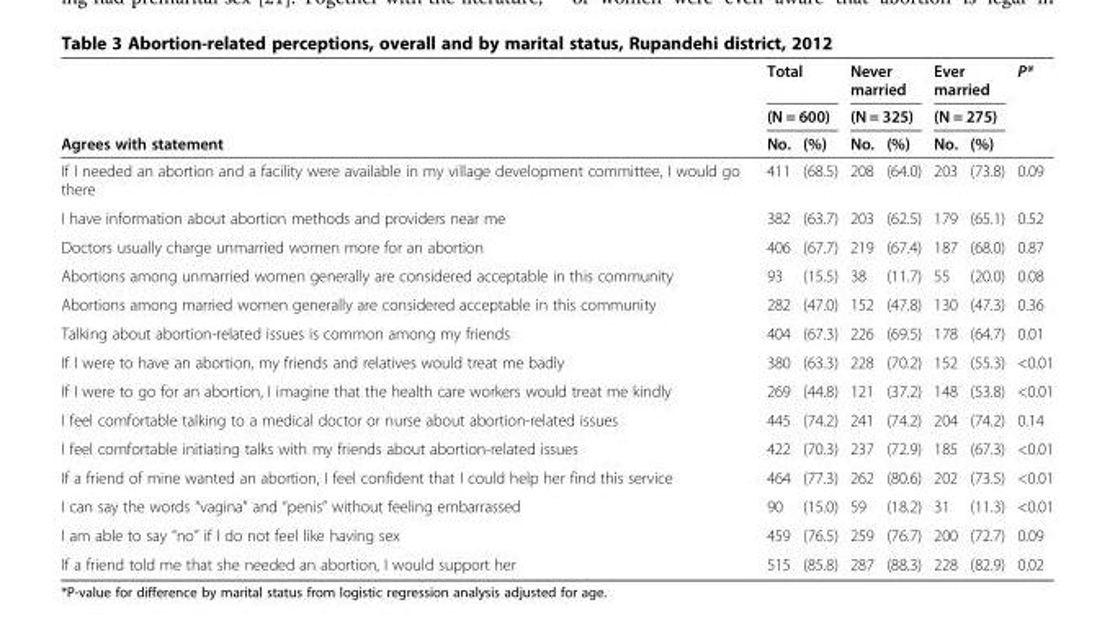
<table><thead><tr><td rowspan="3">Agrees with statement</td><td rowspan="2" colspan="2">Total (N = 600)</td><td rowspan="2" colspan="2">Never married (N = 325)</td><td rowspan="2" colspan="2">Ever married (N = 275)</td><td rowspan="3">P*</td></tr><tr></tr><tr><td>No.</td><td>(%)</td><td>No.</td><td>(%)</td><td>No.</td><td>(%)</td></tr></thead><tbody><tr><td>If I needed an abortion and a facility were available in my village development committee, I would go there</td><td>411</td><td>(68.5)</td><td>208</td><td>(64.0)</td><td>203</td><td>(73.8)</td><td>0.09</td></tr><tr><td>I have information about abortion methods and providers near me</td><td>382</td><td>(63.7)</td><td>203</td><td>(62.5)</td><td>179</td><td>(65.1)</td><td>0.52</td></tr><tr><td>Doctors usually charge unmarried women more for an abortion</td><td>406</td><td>(67.7)</td><td>219</td><td>(67.4)</td><td>187</td><td>(68.0)</td><td>0.87</td></tr><tr><td>Abortions among unmarried women generally are considered acceptable in this community</td><td>93</td><td>(15.5)</td><td>38</td><td>(11.7)</td><td>55</td><td>(20.0)</td><td>0.08</td></tr><tr><td>Abortions among married women generally are considered acceptable in this community</td><td>282</td><td>(47.0)</td><td>152</td><td>(47.8)</td><td>130</td><td>(47.3)</td><td>0.36</td></tr><tr><td>Talking about abortion-related issues is common among my friends</td><td>404</td><td>(67.3)</td><td>226</td><td>(69.5)</td><td>178</td><td>(64.7)</td><td>0.01</td></tr><tr><td>If I were to have an abortion, my friends and relatives would treat me badly</td><td>380</td><td>(63.3)</td><td>228</td><td>(70.2)</td><td>152</td><td>(55.3)</td><td>&lt;0.01</td></tr><tr><td>If I were to go for an abortion, I imagine that the health care workers would treat me kindly</td><td>269</td><td>(44.8)</td><td>121</td><td>(37.2)</td><td>148</td><td>(53.8)</td><td>&lt;0.01</td></tr><tr><td>I feel comfortable talking to a medical doctor or nurse about abortion-related issues</td><td>445</td><td>(74.2)</td><td>241</td><td>(74.2)</td><td>204</td><td>(74.2)</td><td>0.14</td></tr><tr><td>I feel comfortable initiating talks with my friends about abortion-related issues</td><td>422</td><td>(70.3)</td><td>237</td><td>(72.9)</td><td>185</td><td>(67.3)</td><td>&lt;0.01</td></tr><tr><td>If a friend of mine wanted an abortion, I feel confident that I could help her find this service</td><td>464</td><td>(77.3)</td><td>262</td><td>(80.6)</td><td>202</td><td>(73.5)</td><td>&lt;0.01</td></tr><tr><td>I can say the words “vagina” and “penis” without feeling embarrassed</td><td>90</td><td>(15.0)</td><td>59</td><td>(18.2)</td><td>31</td><td>(11.3)</td><td>&lt;0.01</td></tr><tr><td>I am able to say “no” if I do not feel like having sex</td><td>459</td><td>(76.5)</td><td>259</td><td>(76.7)</td><td>200</td><td>(72.7)</td><td>0.09</td></tr><tr><td>If a friend told me that she needed an abortion, I would support her</td><td>515</td><td>(85.8)</td><td>287</td><td>(88.3)</td><td>228</td><td>(82.9)</td><td>0.02</td></tr></tbody></table>